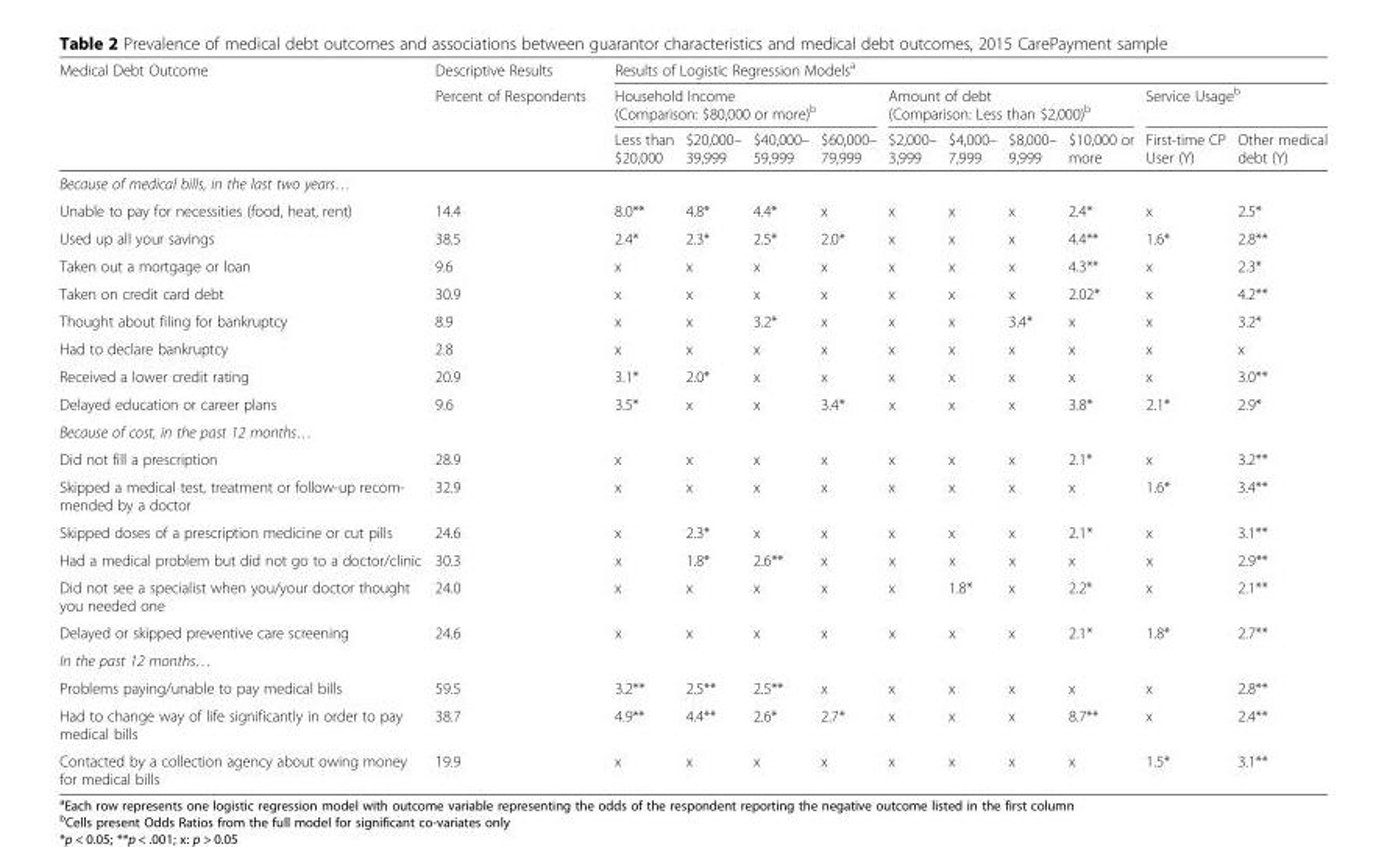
<table><thead><tr><td rowspan="3">Medical Debt Outcome</td><td rowspan="3">Descriptive Results Percent of Respondents</td><td colspan="10">Results of Logistic Regression Models<sup>a</sup></td></tr><tr><td colspan="4">Household Income (Comparison: $80,000 or more)<sup>b</sup></td><td colspan="4">Amount of debt (Comparison: Less than $2,000)<sup>b</sup></td><td colspan="2">Service Usage<sup>b</sup></td></tr><tr><td>Less than $20,000</td><td>$20,000– 39,999</td><td>$40,000– 59,999</td><td>$60,000– 79,999</td><td>$2,000– 3,999</td><td>$4,000– 7,999</td><td>$8,000– 9,999</td><td>$10,000 or more</td><td>First-time CP User (Y)</td><td>Other medical debt (Y)</td></tr></thead><tbody><tr><td colspan="12">Because of medical bills, in the last two years…</td></tr><tr><td>Unable to pay for necessities (food, heat, rent)</td><td>14.4</td><td>8.0**</td><td>4.8*</td><td>4.4*</td><td>x</td><td>x</td><td>x</td><td>x</td><td>2.4*</td><td>x</td><td>2.5*</td></tr><tr><td>Used up all your savings</td><td>38.5</td><td>2.4*</td><td>2.3*</td><td>2.5*</td><td>2.0*</td><td>x</td><td>x</td><td>x</td><td>4.4**</td><td>1.6*</td><td>2.8**</td></tr><tr><td>Taken out a mortgage or loan</td><td>9.6</td><td>x</td><td>x</td><td>x</td><td>x</td><td>x</td><td>x</td><td>x</td><td>4.3**</td><td>x</td><td>2.3*</td></tr><tr><td>Taken on credit card debt</td><td>30.9</td><td>x</td><td>x</td><td>x</td><td>x</td><td>x</td><td>x</td><td>x</td><td>2.02*</td><td>x</td><td>4.2**</td></tr><tr><td>Thought about filing for bankruptcy</td><td>8.9</td><td>x</td><td>x</td><td>3.2*</td><td>x</td><td>x</td><td>x</td><td>3.4*</td><td>x</td><td>x</td><td>3.2*</td></tr><tr><td>Had to declare bankruptcy</td><td>2.8</td><td>x</td><td>x</td><td>x</td><td>x</td><td>x</td><td>x</td><td>x</td><td>x</td><td>x</td><td>x</td></tr><tr><td>Received a lower credit rating</td><td>20.9</td><td>3.1*</td><td>2.0*</td><td>x</td><td>x</td><td>x</td><td>x</td><td>x</td><td>x</td><td>x</td><td>3.0**</td></tr><tr><td>Delayed education or career plans</td><td>9.6</td><td>3.5*</td><td>x</td><td>x</td><td>3.4*</td><td>x</td><td>x</td><td>x</td><td>3.8*</td><td>2.1*</td><td>2.9*</td></tr><tr><td colspan="12">Because of cost, in the past 12 months…</td></tr><tr><td>Did not fill a prescription</td><td>28.9</td><td>x</td><td>x</td><td>x</td><td>x</td><td>x</td><td>x</td><td>x</td><td>2.1*</td><td>x</td><td>3.2**</td></tr><tr><td>Skipped a medical test, treatment or follow-up recom- mended by a doctor</td><td>32.9</td><td>x</td><td>x</td><td>x</td><td>x</td><td>x</td><td>x</td><td>x</td><td>x</td><td>1.6*</td><td>3.4**</td></tr><tr><td>Skipped doses of a prescription medicine or cut pills</td><td>24.6</td><td>x</td><td>2.3*</td><td>x</td><td>x</td><td>x</td><td>x</td><td>x</td><td>2.1*</td><td>x</td><td>3.1**</td></tr><tr><td>Had a medical problem but did not go to a doctor/clinic</td><td>30.3</td><td>x</td><td>1.8*</td><td>2.6**</td><td>x</td><td>x</td><td>x</td><td>x</td><td>x</td><td>x</td><td>2.9**</td></tr><tr><td>Did not see a specialist when you/your doctor thought you needed one</td><td>24.0</td><td>x</td><td>x</td><td>x</td><td>x</td><td>x</td><td>1.8*</td><td>x</td><td>2.2*</td><td>x</td><td>2.1**</td></tr><tr><td>Delayed or skipped preventive care screening</td><td>24.6</td><td>x</td><td>x</td><td>x</td><td>x</td><td>x</td><td>x</td><td>x</td><td>2.1*</td><td>1.8*</td><td>2.7**</td></tr><tr><td colspan="12">In the past 12 months…</td></tr><tr><td>Problems paying/unable to pay medical bills</td><td>59.5</td><td>3.2**</td><td>2.5**</td><td>2.5**</td><td>x</td><td>x</td><td>x</td><td>x</td><td>x</td><td>x</td><td>2.8**</td></tr><tr><td>Had to change way of life significantly in order to pay medical bills</td><td>38.7</td><td>4.9**</td><td>4.4**</td><td>2.6*</td><td>2.7*</td><td>x</td><td>x</td><td>x</td><td>8.7**</td><td>x</td><td>2.4**</td></tr><tr><td>Contacted by a collection agency about owing money for medical bills</td><td>19.9</td><td>x</td><td>x</td><td>x</td><td>x</td><td>x</td><td>x</td><td>x</td><td>x</td><td>1.5*</td><td>3.1**</td></tr></tbody></table>